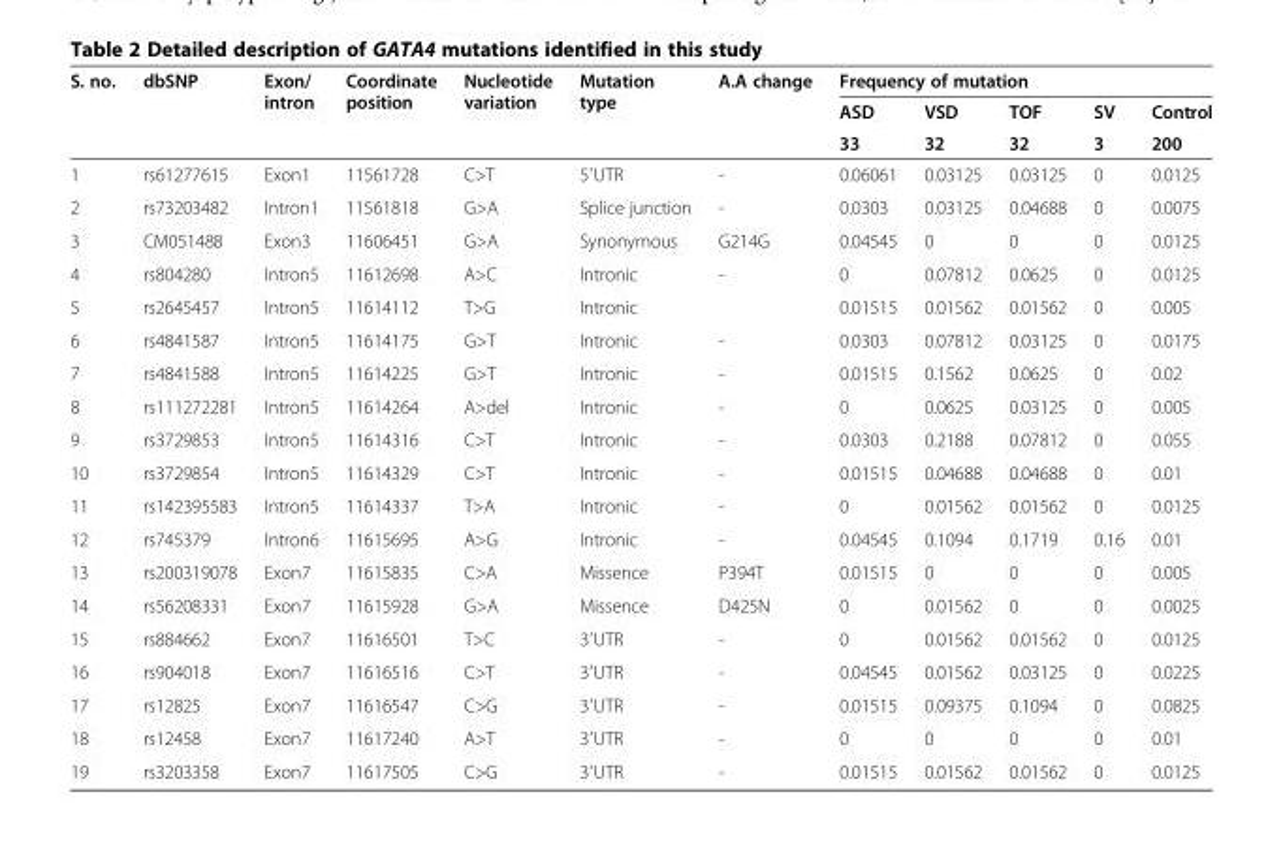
<table><thead><tr><td rowspan="3">S. no.</td><td rowspan="3">dbSNP</td><td rowspan="3">Exon/ intron</td><td rowspan="3">Coordinate position</td><td rowspan="3">Nucleotide variation</td><td rowspan="3">Mutation type</td><td rowspan="3">A.A change</td><td colspan="5">Frequency of mutation</td></tr><tr><td rowspan="2">ASD 33</td><td rowspan="2">VSD 32</td><td rowspan="2">TOF 32</td><td rowspan="2">SV 3</td><td rowspan="2">Control 200</td></tr><tr></tr></thead><tbody><tr><td>1</td><td>rs61277615</td><td>Exon1</td><td>11561728</td><td>C&gt;T</td><td>5′UTR</td><td>-</td><td>0.06061</td><td>0.03125</td><td>0.03125</td><td>0</td><td>0.0125</td></tr><tr><td>2</td><td>rs73203482</td><td>Intron1</td><td>11561818</td><td>G&gt;A</td><td>Splice junction</td><td>-</td><td>0.0303</td><td>0.03125</td><td>0.04688</td><td>0</td><td>0.0075</td></tr><tr><td>3</td><td>CM051488</td><td>Exon3</td><td>11606451</td><td>G&gt;A</td><td>Synonymous</td><td>G214G</td><td>0.04545</td><td>0</td><td>0</td><td>0</td><td>0.0125</td></tr><tr><td>4</td><td>rs804280</td><td>Intron5</td><td>11612698</td><td>A&gt;C</td><td>Intronic</td><td>-</td><td>0</td><td>0.07812</td><td>0.0625</td><td>0</td><td>0.0125</td></tr><tr><td>5</td><td>rs2645457</td><td>Intron5</td><td>11614112</td><td>T&gt;G</td><td>Intronic</td><td></td><td>0.01515</td><td>0.01562</td><td>0.01562</td><td>0</td><td>0.005</td></tr><tr><td>6</td><td>rs4841587</td><td>Intron5</td><td>11614175</td><td>G&gt;T</td><td>Intronic</td><td>-</td><td>0.0303</td><td>0.07812</td><td>0.03125</td><td>0</td><td>0.0175</td></tr><tr><td>7</td><td>rs4841588</td><td>Intron5</td><td>11614225</td><td>G&gt;T</td><td>Intronic</td><td>-</td><td>0.01515</td><td>0.1562</td><td>0.0625</td><td>0</td><td>0.02</td></tr><tr><td>8</td><td>rs111272281</td><td>Intron5</td><td>11614264</td><td>A&gt;del</td><td>Intronic</td><td>-</td><td>0</td><td>0.0625</td><td>0.03125</td><td>0</td><td>0.005</td></tr><tr><td>9</td><td>rs3729853</td><td>Intron5</td><td>11614316</td><td>C&gt;T</td><td>Intronic</td><td>-</td><td>0.0303</td><td>0.2188</td><td>0.07812</td><td>0</td><td>0.055</td></tr><tr><td>10</td><td>rs3729854</td><td>Intron5</td><td>11614329</td><td>C&gt;T</td><td>Intronic</td><td>-</td><td>0.01515</td><td>0.04688</td><td>0.04688</td><td>0</td><td>0.01</td></tr><tr><td>11</td><td>rs142395583</td><td>Intron5</td><td>11614337</td><td>T&gt;A</td><td>Intronic</td><td>-</td><td>0</td><td>0.01562</td><td>0.01562</td><td>0</td><td>0.0125</td></tr><tr><td>12</td><td>rs745379</td><td>Intron6</td><td>11615695</td><td>A&gt;G</td><td>Intronic</td><td>-</td><td>0.04545</td><td>0.1094</td><td>0.1719</td><td>0.16</td><td>0.01</td></tr><tr><td>13</td><td>rs200319078</td><td>Exon7</td><td>11615835</td><td>C&gt;A</td><td>Missence</td><td>P394T</td><td>0.01515</td><td>0</td><td>0</td><td>0</td><td>0.005</td></tr><tr><td>14</td><td>rs56208331</td><td>Exon7</td><td>11615928</td><td>G&gt;A</td><td>Missence</td><td>D425N</td><td>0</td><td>0.01562</td><td>0</td><td>0</td><td>0.0025</td></tr><tr><td>15</td><td>rs884662</td><td>Exon7</td><td>11616501</td><td>T&gt;C</td><td>3′UTR</td><td>-</td><td>0</td><td>0.01562</td><td>0.01562</td><td>0</td><td>0.0125</td></tr><tr><td>16</td><td>rs904018</td><td>Exon7</td><td>11616516</td><td>C&gt;T</td><td>3′UTR</td><td>-</td><td>0.04545</td><td>0.01562</td><td>0.03125</td><td>0</td><td>0.0225</td></tr><tr><td>17</td><td>rs12825</td><td>Exon7</td><td>11616547</td><td>C&gt;G</td><td>3′UTR</td><td>-</td><td>0.01515</td><td>0.09375</td><td>0.1094</td><td>0</td><td>0.0825</td></tr><tr><td>18</td><td>rs12458</td><td>Exon7</td><td>11617240</td><td>A&gt;T</td><td>3′UTR</td><td>-</td><td>0</td><td>0</td><td>0</td><td>0</td><td>0.01</td></tr><tr><td>19</td><td>rs3203358</td><td>Exon7</td><td>11617505</td><td>C&gt;G</td><td>3′UTR</td><td>-</td><td>0.01515</td><td>0.01562</td><td>0.01562</td><td>0</td><td>0.0125</td></tr></tbody></table>